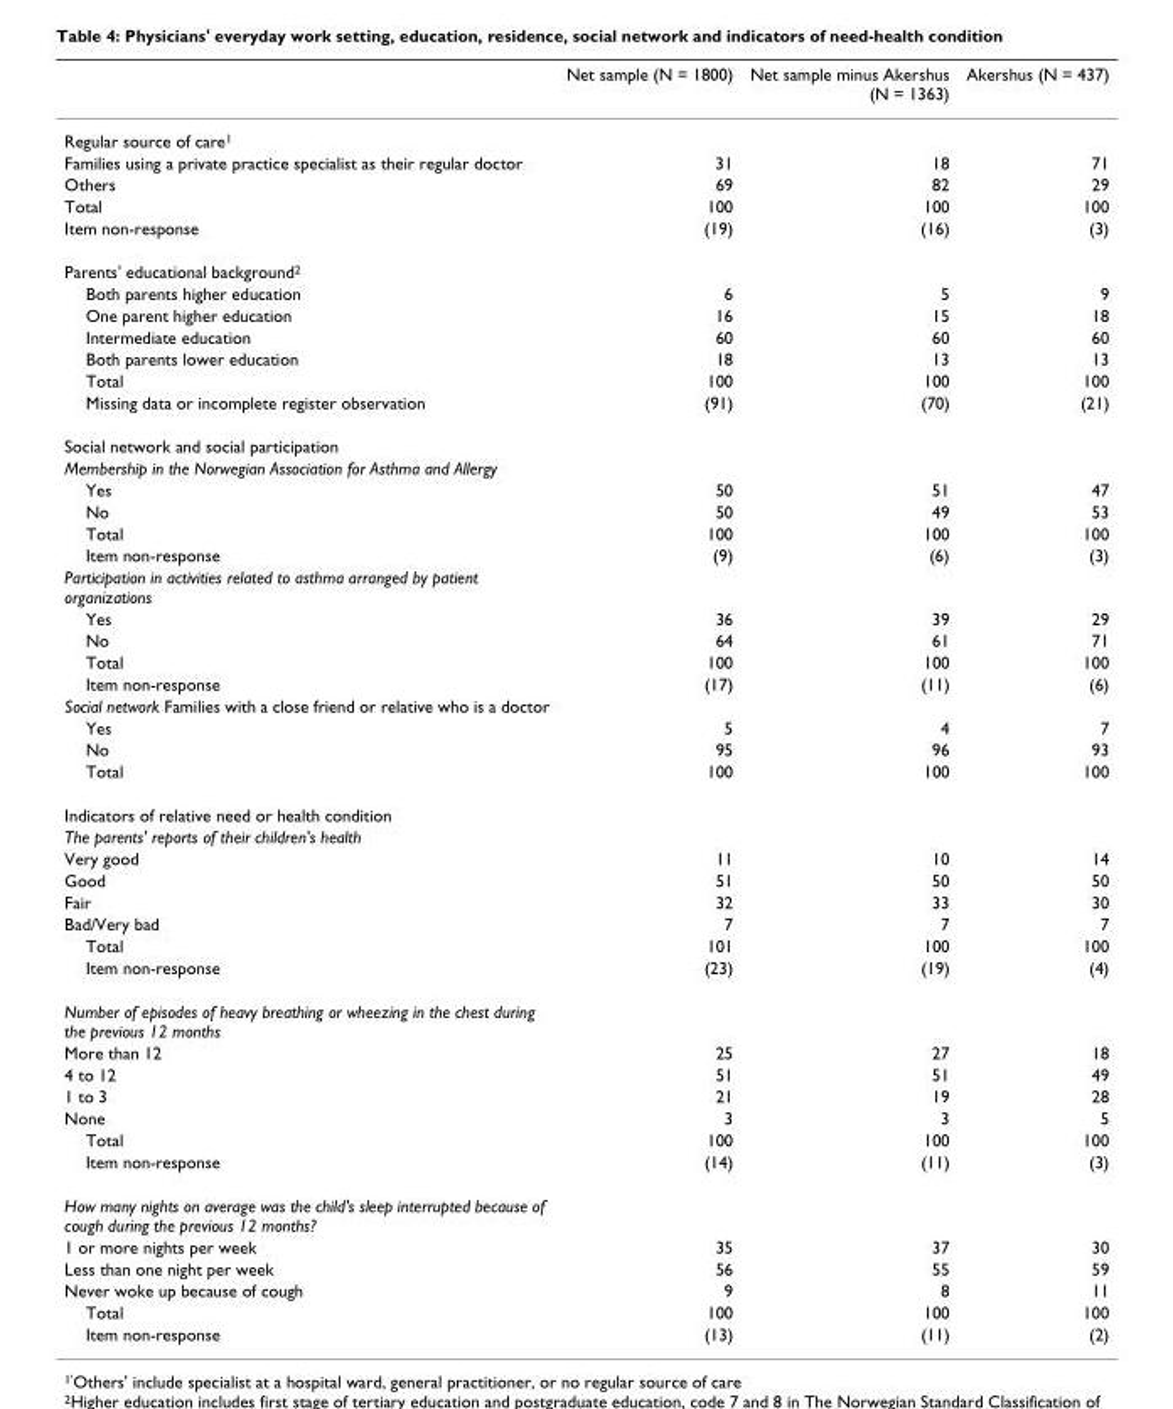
<table><thead><tr><td></td><td>Net sample (N = 1800)</td><td>Net sample minus Akershus (N = 1363)</td><td>Akershus (N = 437)</td></tr></thead><tbody><tr><td colspan="4">Regular source of care<sup>1</sup></td></tr><tr><td>Families using a private practice specialist as their regular doctor</td><td>31</td><td>18</td><td>71</td></tr><tr><td>Others</td><td>69</td><td>82</td><td>29</td></tr><tr><td>Total</td><td>100</td><td>100</td><td>100</td></tr><tr><td>Item non-response</td><td>(19)</td><td>(16)</td><td>(3)</td></tr><tr><td colspan="4">Parents&#x27; educational background<sup>2</sup></td></tr><tr><td>Both parents higher education</td><td>6</td><td>5</td><td>9</td></tr><tr><td>One parent higher education</td><td>16</td><td>15</td><td>18</td></tr><tr><td>Intermediate education</td><td>60</td><td>60</td><td>60</td></tr><tr><td>Both parents lower education</td><td>18</td><td>13</td><td>13</td></tr><tr><td>Total</td><td>100</td><td>100</td><td>100</td></tr><tr><td>Missing data or incomplete register observation</td><td>(91)</td><td>(70)</td><td>(21)</td></tr><tr><td colspan="4">Social network and social participation</td></tr><tr><td colspan="4">Membership in the Norwegian Association for Asthma and Allergy</td></tr><tr><td>Yes</td><td>50</td><td>51</td><td>47</td></tr><tr><td>No</td><td>50</td><td>49</td><td>53</td></tr><tr><td>Total</td><td>100</td><td>100</td><td>100</td></tr><tr><td>Item non-response</td><td>(9)</td><td>(6)</td><td>(3)</td></tr><tr><td colspan="4">Participation in activities related to asthma arranged by patient organizations</td></tr><tr><td>Yes</td><td>36</td><td>39</td><td>29</td></tr><tr><td>No</td><td>64</td><td>61</td><td>71</td></tr><tr><td>Total</td><td>100</td><td>100</td><td>100</td></tr><tr><td>Item non-response</td><td>(17)</td><td>(11)</td><td>(6)</td></tr><tr><td colspan="4">Social network Families with a close friend or relative who is a doctor</td></tr><tr><td>Yes</td><td>5</td><td>4</td><td>7</td></tr><tr><td>No</td><td>95</td><td>96</td><td>93</td></tr><tr><td>Total</td><td>100</td><td>100</td><td>100</td></tr><tr><td colspan="4">Indicators of relative need or health condition</td></tr><tr><td colspan="4">The parents&#x27; reports of their children&#x27;s health</td></tr><tr><td>Very good</td><td>11</td><td>10</td><td>14</td></tr><tr><td>Good</td><td>51</td><td>50</td><td>50</td></tr><tr><td>Fair</td><td>32</td><td>33</td><td>30</td></tr><tr><td>Bad/Very bad</td><td>7</td><td>7</td><td>7</td></tr><tr><td>Total</td><td>101</td><td>100</td><td>100</td></tr><tr><td>Item non-response</td><td>(23)</td><td>(19)</td><td>(4)</td></tr><tr><td colspan="4">Number of episodes of heavy breathing or wheezing in the chest during the previous 12 months</td></tr><tr><td>More than 12</td><td>25</td><td>27</td><td>18</td></tr><tr><td>4 to 12</td><td>51</td><td>51</td><td>49</td></tr><tr><td>1 to 3</td><td>21</td><td>19</td><td>28</td></tr><tr><td>None</td><td>3</td><td>3</td><td>5</td></tr><tr><td>Total</td><td>100</td><td>100</td><td>100</td></tr><tr><td>Item non-response</td><td>(14)</td><td>(11)</td><td>(3)</td></tr><tr><td colspan="4">How many nights on average was the child&#x27;s sleep interrupted because of cough during the previous 12 months?</td></tr><tr><td>1 or more nights per week</td><td>35</td><td>37</td><td>30</td></tr><tr><td>Less than one night per week</td><td>56</td><td>55</td><td>59</td></tr><tr><td>Never woke up because of cough</td><td>9</td><td>8</td><td>11</td></tr><tr><td>Total</td><td>100</td><td>100</td><td>100</td></tr><tr><td>Item non-response</td><td>(13)</td><td>(11)</td><td>(2)</td></tr></tbody></table>